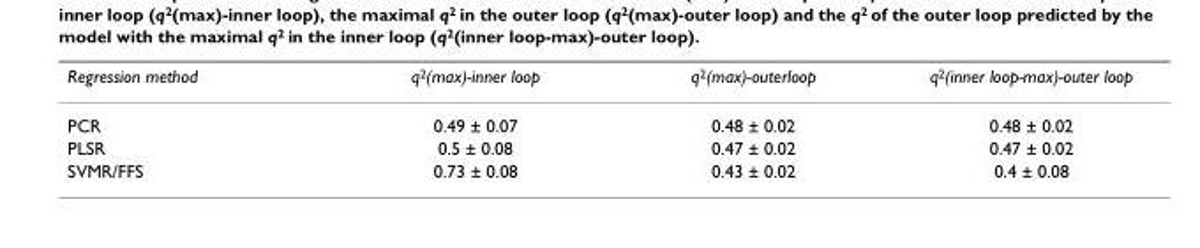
<table><thead><tr><td>Regression method</td><td>q<sup>2</sup>(max)-inner loop</td><td>q<sup>2</sup>(max)-outerloop</td><td>q<sup>2</sup>(inner loop-max)-outer loop</td></tr></thead><tbody><tr><td>PCR</td><td>0.49 ± 0.07</td><td>0.48 ± 0.02</td><td>0.48 ± 0.02</td></tr><tr><td>PLSR</td><td>0.5 ± 0.08</td><td>0.47 ± 0.02</td><td>0.47 ± 0.02</td></tr><tr><td>SVMR/FFS</td><td>0.73 ± 0.08</td><td>0.43 ± 0.02</td><td>0.4 ± 0.08</td></tr></tbody></table>